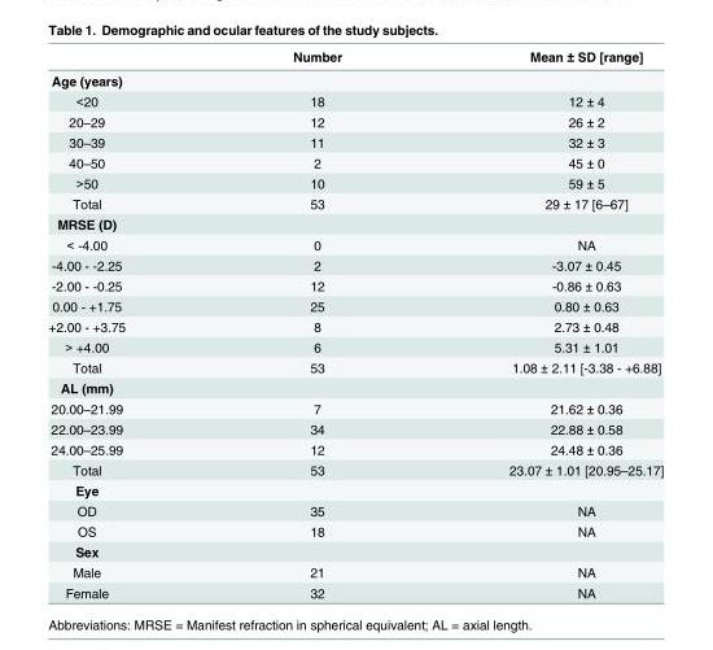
<table><thead><tr><td></td><td>Number</td><td>Mean ± SD [range]</td></tr></thead><tbody><tr><td colspan="3">Age (years)</td></tr><tr><td>&lt;20</td><td>18</td><td>12 ± 4</td></tr><tr><td>20–29</td><td>12</td><td>26 ± 2</td></tr><tr><td>30–39</td><td>11</td><td>32 ± 3</td></tr><tr><td>40–50</td><td>2</td><td>45 ± 0</td></tr><tr><td>&gt;50</td><td>10</td><td>59 ± 5</td></tr><tr><td>Total</td><td>53</td><td>29 ± 17 [6–67]</td></tr><tr><td colspan="3">MRSE (D)</td></tr><tr><td>&lt; -4.00</td><td>0</td><td>NA</td></tr><tr><td>-4.00 - -2.25</td><td>2</td><td>-3.07 ± 0.45</td></tr><tr><td>-2.00 - -0.25</td><td>12</td><td>-0.86 ± 0.63</td></tr><tr><td>0.00 - +1.75</td><td>25</td><td>0.80 ± 0.63</td></tr><tr><td>+2.00 - +3.75</td><td>8</td><td>2.73 ± 0.48</td></tr><tr><td>&gt; +4.00</td><td>6</td><td>5.31 ± 1.01</td></tr><tr><td>Total</td><td>53</td><td>1.08 ± 2.11 [-3.38 - +6.88]</td></tr><tr><td colspan="3">AL (mm)</td></tr><tr><td>20.00–21.99</td><td>7</td><td>21.62 ± 0.36</td></tr><tr><td>22.00–23.99</td><td>34</td><td>22.88 ± 0.58</td></tr><tr><td>24.00–25.99</td><td>12</td><td>24.48 ± 0.36</td></tr><tr><td>Total</td><td>53</td><td>23.07 ± 1.01 [20.95–25.17]</td></tr><tr><td colspan="3">Eye</td></tr><tr><td>OD</td><td>35</td><td>NA</td></tr><tr><td>OS</td><td>18</td><td>NA</td></tr><tr><td colspan="3">Sex</td></tr><tr><td>Male</td><td>21</td><td>NA</td></tr><tr><td>Female</td><td>32</td><td>NA</td></tr></tbody></table>